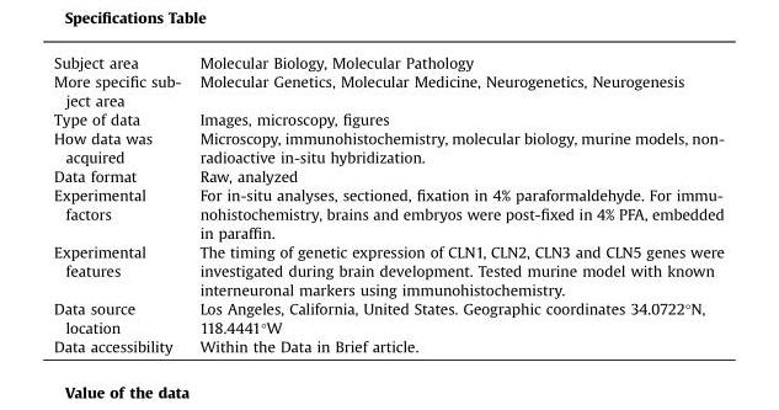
<table><tbody><tr><td>Subject area</td><td>Molecular Biology, Molecular Pathology</td></tr><tr><td>More specific sub- ject area</td><td>Molecular Genetics, Molecular Medicine, Neurogenetics, Neurogenesis</td></tr><tr><td>Type of data</td><td>Images, microscopy, figures</td></tr><tr><td>How data was acquired</td><td>Microscopy, immunohistochemistry, molecular biology, murine models, non- radioactive in-situ hybridization.</td></tr><tr><td>Data format</td><td>Raw, analyzed</td></tr><tr><td>Experimental factors</td><td>For in-situ analyses, sectioned, fixation in 4% paraformaldehyde. For immu- nohistochemistry, brains and embryos were post-fixed in 4% PFA, embedded in paraffin.</td></tr><tr><td>Experimental features</td><td>The timing of genetic expression of CLN1, CLN2, CLN3 and CLN5 genes were investigated during brain development. Tested murine model with known interneuronal markers using immunohistochemistry.</td></tr><tr><td>Data source location</td><td>Los Angeles, California, United States. Geographic coordinates 34.0722°N, 118.4441°W</td></tr><tr><td>Data accessibility</td><td>Within the Data in Brief article.</td></tr></tbody></table>